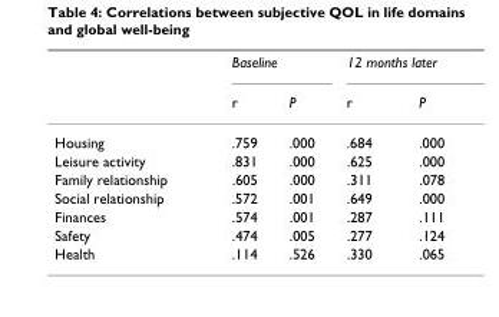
<table><thead><tr><td rowspan="2"></td><td colspan="2">Baseline</td><td colspan="2">12 months later</td></tr><tr><td>r</td><td>P</td><td>r</td><td>P</td></tr></thead><tbody><tr><td>Housing</td><td>.759</td><td>.000</td><td>.684</td><td>.000</td></tr><tr><td>Leisure activity</td><td>.831</td><td>.000</td><td>.625</td><td>.000</td></tr><tr><td>Family relationship</td><td>.605</td><td>.000</td><td>.311</td><td>.078</td></tr><tr><td>Social relationship</td><td>.572</td><td>.001</td><td>.649</td><td>.000</td></tr><tr><td>Finances</td><td>.574</td><td>.001</td><td>.287</td><td>.111</td></tr><tr><td>Safety</td><td>.474</td><td>.005</td><td>.277</td><td>.124</td></tr><tr><td>Health</td><td>.114</td><td>.526</td><td>.330</td><td>.065</td></tr></tbody></table>